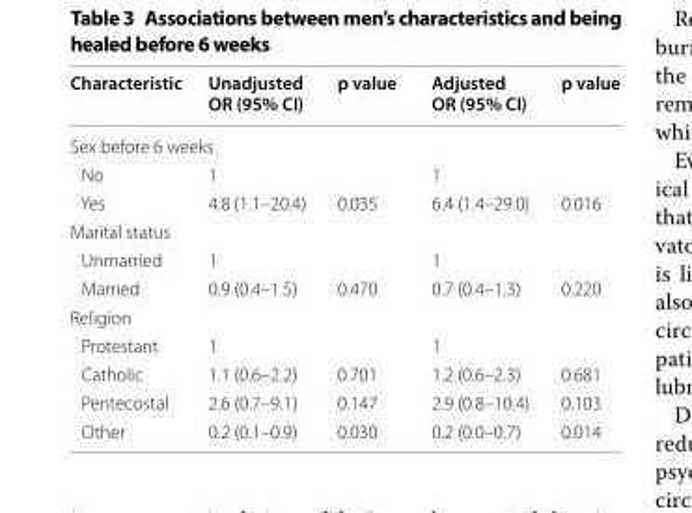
<table><thead><tr><td>Characteristic</td><td>Unadjusted OR (95% CI)</td><td>p value</td><td>Adjusted OR (95% CI)</td><td>p value</td></tr></thead><tbody><tr><td colspan="5">Sex before 6 weeks</td></tr><tr><td>No</td><td>1</td><td></td><td>1</td><td></td></tr><tr><td>Yes</td><td>4.8 (1.1–20.4)</td><td>0.035</td><td>6.4 (1.4–29.0)</td><td>0.016</td></tr><tr><td colspan="5">Marital status</td></tr><tr><td>Unmarried</td><td>1</td><td></td><td>1</td><td></td></tr><tr><td>Married</td><td>0.9 (0.4–1.5)</td><td>0.470</td><td>0.7 (0.4–1.3)</td><td>0.220</td></tr><tr><td colspan="5">Religion</td></tr><tr><td>Protestant</td><td>1</td><td></td><td>1</td><td></td></tr><tr><td>Catholic</td><td>1.1 (0.6–2.2)</td><td>0.701</td><td>1.2 (0.6–2.3)</td><td>0.681</td></tr><tr><td>Pentecostal</td><td>2.6 (0.7–9.1)</td><td>0.147</td><td>2.9 (0.8–10.4)</td><td>0.103</td></tr><tr><td>Other</td><td>0.2 (0.1–0.9)</td><td>0.030</td><td>0.2 (0.0–0.7)</td><td>0.014</td></tr></tbody></table>